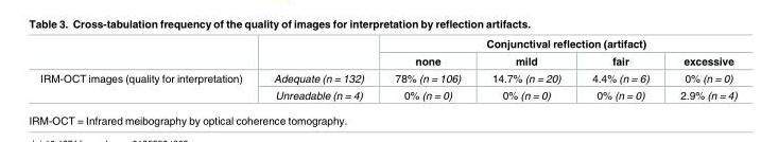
<table><thead><tr><td rowspan="2"></td><td rowspan="2"></td><td colspan="4">Conjunctival reflection (artifact)</td></tr><tr><td>none</td><td>mild</td><td>fair</td><td>excessive</td></tr></thead><tbody><tr><td rowspan="2">IRM-OCT images (quality for interpretation)</td><td>Adequate (n = 132)</td><td>78% (n = 106)</td><td>14.7% (n = 20)</td><td>4.4% (n = 6)</td><td>0% (n = 0)</td></tr><tr><td>Unreadable (n = 4)</td><td>0% (n = 0)</td><td>0% (n = 0)</td><td>0% (n = 0)</td><td>2.9% (n = 4)</td></tr></tbody></table>